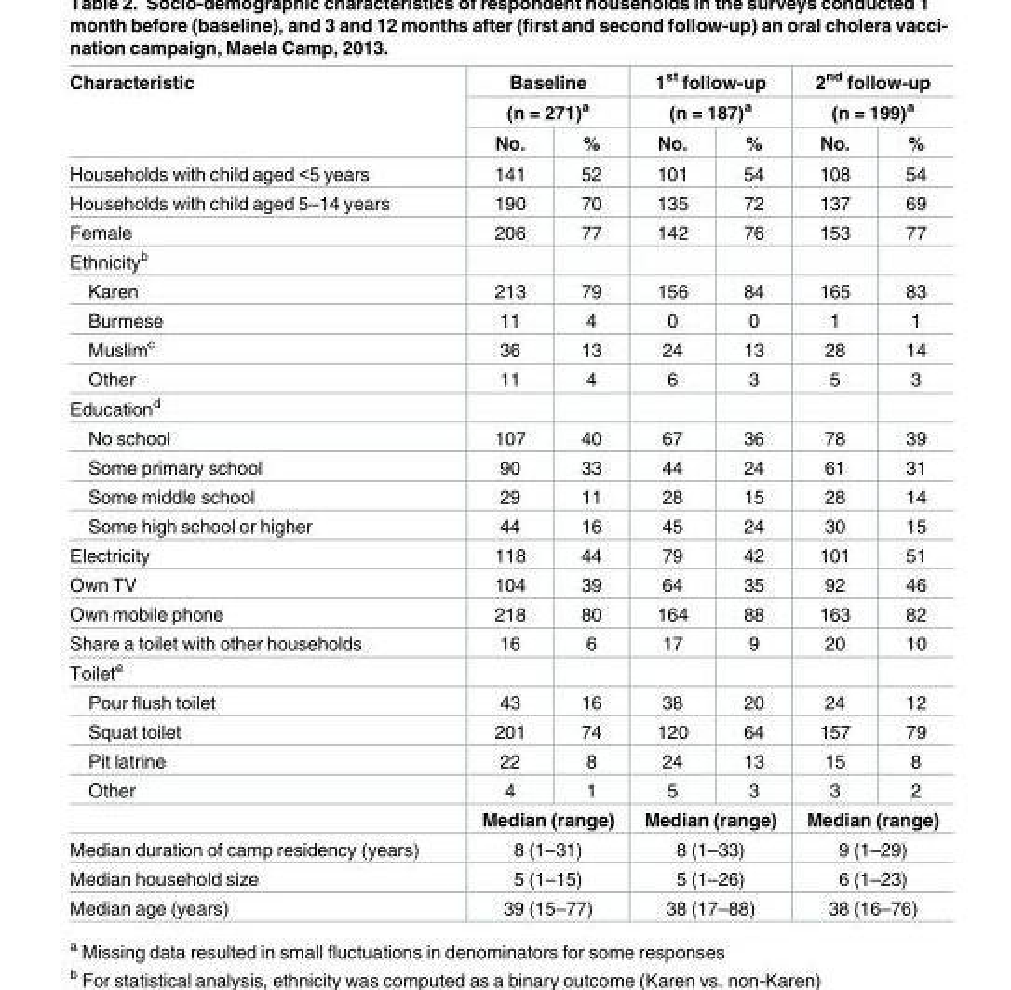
<table><thead><tr><td rowspan="3">Characteristic</td><td rowspan="2" colspan="2">Baseline (n = 271)<sup>a</sup></td><td rowspan="2" colspan="2">1<sup>st</sup> follow-up (n = 187)<sup>a</sup></td><td rowspan="2" colspan="2">2<sup>nd</sup> follow-up (n = 199)<sup>a</sup></td></tr><tr></tr><tr><td>No.</td><td>%</td><td>No.</td><td>%</td><td>No.</td><td>%</td></tr></thead><tbody><tr><td>Households with child aged &lt;5 years</td><td>141</td><td>52</td><td>101</td><td>54</td><td>108</td><td>54</td></tr><tr><td>Households with child aged 5–14 years</td><td>190</td><td>70</td><td>135</td><td>72</td><td>137</td><td>69</td></tr><tr><td>Female</td><td>206</td><td>77</td><td>142</td><td>76</td><td>153</td><td>77</td></tr><tr><td colspan="7">Ethnicity<sup>b</sup></td></tr><tr><td>Karen</td><td>213</td><td>79</td><td>156</td><td>84</td><td>165</td><td>83</td></tr><tr><td>Burmese</td><td>11</td><td>4</td><td>0</td><td>0</td><td>1</td><td>1</td></tr><tr><td>Muslim<sup>c</sup></td><td>36</td><td>13</td><td>24</td><td>13</td><td>28</td><td>14</td></tr><tr><td>Other</td><td>11</td><td>4</td><td>6</td><td>3</td><td>5</td><td>3</td></tr><tr><td colspan="7">Education<sup>d</sup></td></tr><tr><td>No school</td><td>107</td><td>40</td><td>67</td><td>36</td><td>78</td><td>39</td></tr><tr><td>Some primary school</td><td>90</td><td>33</td><td>44</td><td>24</td><td>61</td><td>31</td></tr><tr><td>Some middle school</td><td>29</td><td>11</td><td>28</td><td>15</td><td>28</td><td>14</td></tr><tr><td>Some high school or higher</td><td>44</td><td>16</td><td>45</td><td>24</td><td>30</td><td>15</td></tr><tr><td>Electricity</td><td>118</td><td>44</td><td>79</td><td>42</td><td>101</td><td>51</td></tr><tr><td>Own TV</td><td>104</td><td>39</td><td>64</td><td>35</td><td>92</td><td>46</td></tr><tr><td>Own mobile phone</td><td>218</td><td>80</td><td>164</td><td>88</td><td>163</td><td>82</td></tr><tr><td>Share a toilet with other households</td><td>16</td><td>6</td><td>17</td><td>9</td><td>20</td><td>10</td></tr><tr><td colspan="7">Toilet<sup>e</sup></td></tr><tr><td>Pour flush toilet</td><td>43</td><td>16</td><td>38</td><td>20</td><td>24</td><td>12</td></tr><tr><td>Squat toilet</td><td>201</td><td>74</td><td>120</td><td>64</td><td>157</td><td>79</td></tr><tr><td>Pit latrine</td><td>22</td><td>8</td><td>24</td><td>13</td><td>15</td><td>8</td></tr><tr><td rowspan="2">Other</td><td>4</td><td>1</td><td>5</td><td>3</td><td>3</td><td>2</td></tr><tr><td colspan="2">Median (range)</td><td colspan="2">Median (range)</td><td colspan="2">Median (range)</td></tr><tr><td>Median duration of camp residency (years)</td><td colspan="2">8 (1–31)</td><td colspan="2">8 (1–33)</td><td colspan="2">9 (1–29)</td></tr><tr><td>Median household size</td><td colspan="2">5 (1–15)</td><td colspan="2">5 (1–26)</td><td colspan="2">6 (1–23)</td></tr><tr><td>Median age (years)</td><td colspan="2">39 (15–77)</td><td colspan="2">38 (17–88)</td><td colspan="2">38 (16–76)</td></tr></tbody></table>